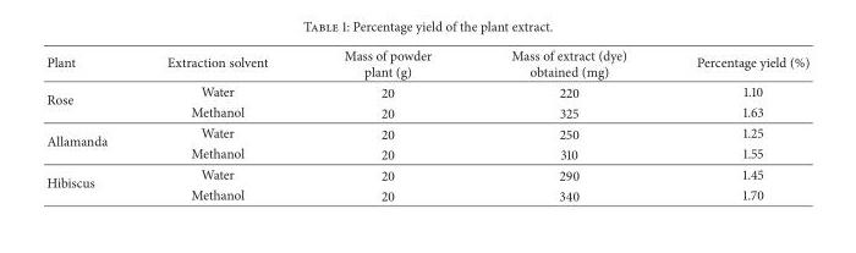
<table><thead><tr><td>Plant</td><td>Extraction solvent</td><td>Mass of powder plant (g)</td><td>Mass of extract (dye) obtained (mg)</td><td>Percentage yield (%)</td></tr></thead><tbody><tr><td rowspan="2">Rose</td><td>Water</td><td>20</td><td>220</td><td>1.10</td></tr><tr><td>Methanol</td><td>20</td><td>325</td><td>1.63</td></tr><tr><td rowspan="2">Allamanda</td><td>Water</td><td>20</td><td>250</td><td>1.25</td></tr><tr><td>Methanol</td><td>20</td><td>310</td><td>1.55</td></tr><tr><td rowspan="2">Hibiscus</td><td>Water</td><td>20</td><td>290</td><td>1.45</td></tr><tr><td>Methanol</td><td>20</td><td>340</td><td>1.70</td></tr></tbody></table>